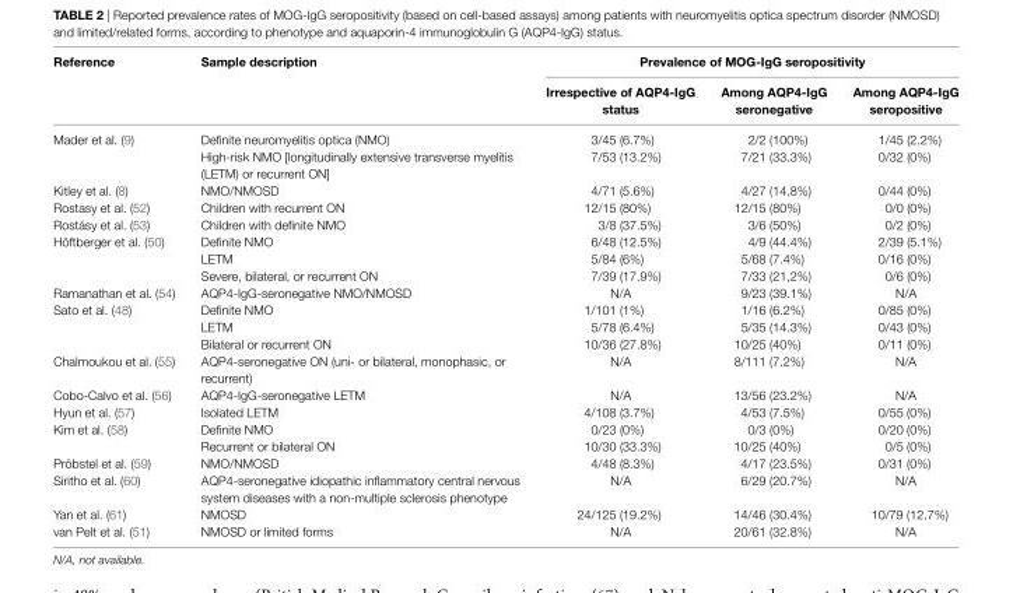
<table><thead><tr><td rowspan="2">Reference</td><td rowspan="2">Sample description</td><td colspan="3">Prevalence of MOG-igG seropositivity</td></tr><tr><td>irrespective of AQP4-igG status</td><td>Among AQP4-igG seronegative</td><td>Among AQP4-igG seropositive</td></tr></thead><tbody><tr><td rowspan="2">Mader et al. (9)</td><td>Definite neuromyelitis optica (NMO)</td><td>3/45 (6.7%)</td><td>2/2 (100%)</td><td>1/45 (2.2%)</td></tr><tr><td>High-risk NMO [longitudinally extensive transverse myelitis (LETM) or recurrent ON]</td><td>7/53 (13.2%)</td><td>7/21 (33.3%)</td><td>0/32 (0%)</td></tr><tr><td>Kitley et al. (8)</td><td>NMO/NMOSD</td><td>4/71 (5.6%)</td><td>4/27 (14.8%)</td><td>0/44 (0%)</td></tr><tr><td>Rostasy et al. (52)</td><td>Children with recurrent ON</td><td>12/15 (80%)</td><td>12/15 (80%)</td><td>0/0 (0%)</td></tr><tr><td>Rostásy et al. (53)</td><td>Children with definite NMO</td><td>3/8 (37.5%)</td><td>3/6 (50%)</td><td>0/2 (0%)</td></tr><tr><td rowspan="3">Höftberger et al. (50)</td><td>Definite NMO</td><td>6/48 (12.5%)</td><td>4/9 (44.4%)</td><td>2/39 (5.1%)</td></tr><tr><td>LETM</td><td>5/84 (6%)</td><td>5/68 (7.4%)</td><td>0/16 (0%)</td></tr><tr><td>Severe, bilateral, or recurrent ON</td><td>7/39 (17.9%)</td><td>7/33 (21,2%)</td><td>0/6 (0%)</td></tr><tr><td>Ramanathan et al. (54)</td><td>AQP4-IgG-seronegative NMO/NMOSD</td><td>N/A</td><td>9/23 (39.1%)</td><td>N/A</td></tr><tr><td rowspan="3">Sato et al. (48)</td><td>Definite NMO</td><td>1/101 (1%)</td><td>1/16 (6.2%)</td><td>0/85 (0%)</td></tr><tr><td>LETM</td><td>5/78 (6.4%)</td><td>5/35 (14.3%)</td><td>0/43 (0%)</td></tr><tr><td>Bilateral or recurrent ON</td><td>10/36 (27.8%)</td><td>10/25 (40%)</td><td>0/11 (0%)</td></tr><tr><td>Chalmoukou et al. (55)</td><td>AQP4-seronegative ON (uni- or bilateral, monophasic, or recurrent)</td><td>N/A</td><td>8/111 (7.2%)</td><td>N/A</td></tr><tr><td>Cobo-Calvo et al. (56)</td><td>AQP4-IgG-seronegative LETM</td><td>N/A</td><td>13/56 (23.2%)</td><td>N/A</td></tr><tr><td>Hyun et al. (57)</td><td>Isolated LETM</td><td>4/108 (3.7%)</td><td>4/53 (7.5%)</td><td>0/55 (0%)</td></tr><tr><td rowspan="2">Kim et al. (58)</td><td>Definite NMO</td><td>0/23 (0%)</td><td>0/3 (0%)</td><td>0/20 (0%)</td></tr><tr><td>Recurrent or bilateral ON</td><td>10/30 (33.3%)</td><td>10/25 (40%)</td><td>0/5 (0%)</td></tr><tr><td>Pröbstel et al. (59)</td><td>NMO/NMOSD</td><td>4/48 (8.3%)</td><td>4/17 (23.5%)</td><td>0/31 (0%)</td></tr><tr><td>Siritho et al. (60)</td><td>AQP4-seronegative idiopathic inflammatory central nervous system diseases with a non-multiple sclerosis phenotype</td><td>N/A</td><td>6/29 (20.7%)</td><td>N/A</td></tr><tr><td>Yan et al. (61)</td><td>NMOSD</td><td>24/125 (19.2%)</td><td>14/46 (30.4%)</td><td>10/79 (12.7%)</td></tr><tr><td>van Pelt et al. (51)</td><td>NMOSD or limited forms</td><td>N/A</td><td>20/61 (32.8%)</td><td>N/A</td></tr></tbody></table>